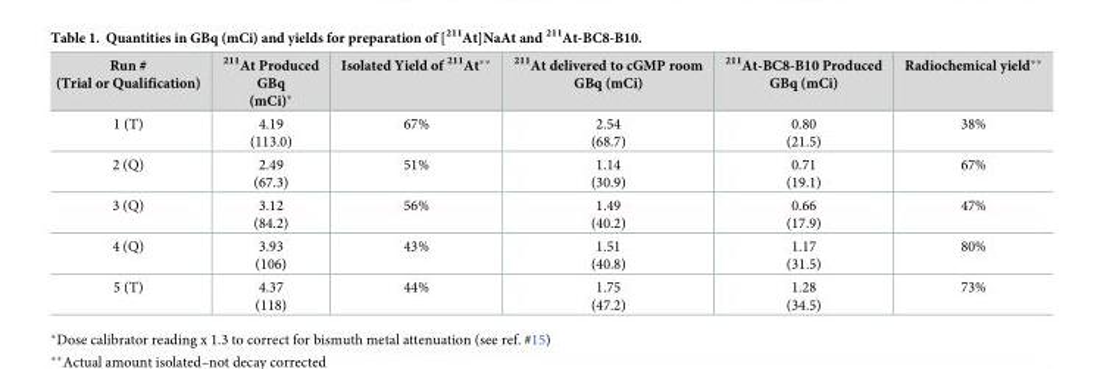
<table><thead><tr><td>Run # (Trial or Qualification)</td><td><sup>211</sup>At Produced GBq (mCi)*</td><td>Isolated Yield of <sup>211</sup>At**</td><td><sup>211</sup>At delivered to cGMP room GBq (mCi)</td><td><sup>211</sup>At-BC8-B10 Produced GBq (mCi)</td><td>Radiochemical yield**</td></tr></thead><tbody><tr><td>1 (T)</td><td>4.19 (113.0)</td><td>67%</td><td>2.54 (68.7)</td><td>0.80 (21.5)</td><td>38%</td></tr><tr><td>2 (Q)</td><td>2.49 (67.3)</td><td>51%</td><td>1.14 (30.9)</td><td>0.71 (19.1)</td><td>67%</td></tr><tr><td>3 (Q)</td><td>3.12 (84.2)</td><td>56%</td><td>1.49 (40.2)</td><td>0.66 (17.9)</td><td>47%</td></tr><tr><td>4 (Q)</td><td>3.93 (106)</td><td>43%</td><td>1.51 (40.8)</td><td>1.17 (31.5)</td><td>80%</td></tr><tr><td>5 (T)</td><td>4.37 (118)</td><td>44%</td><td>1.75 (47.2)</td><td>1.28 (34.5)</td><td>73%</td></tr></tbody></table>